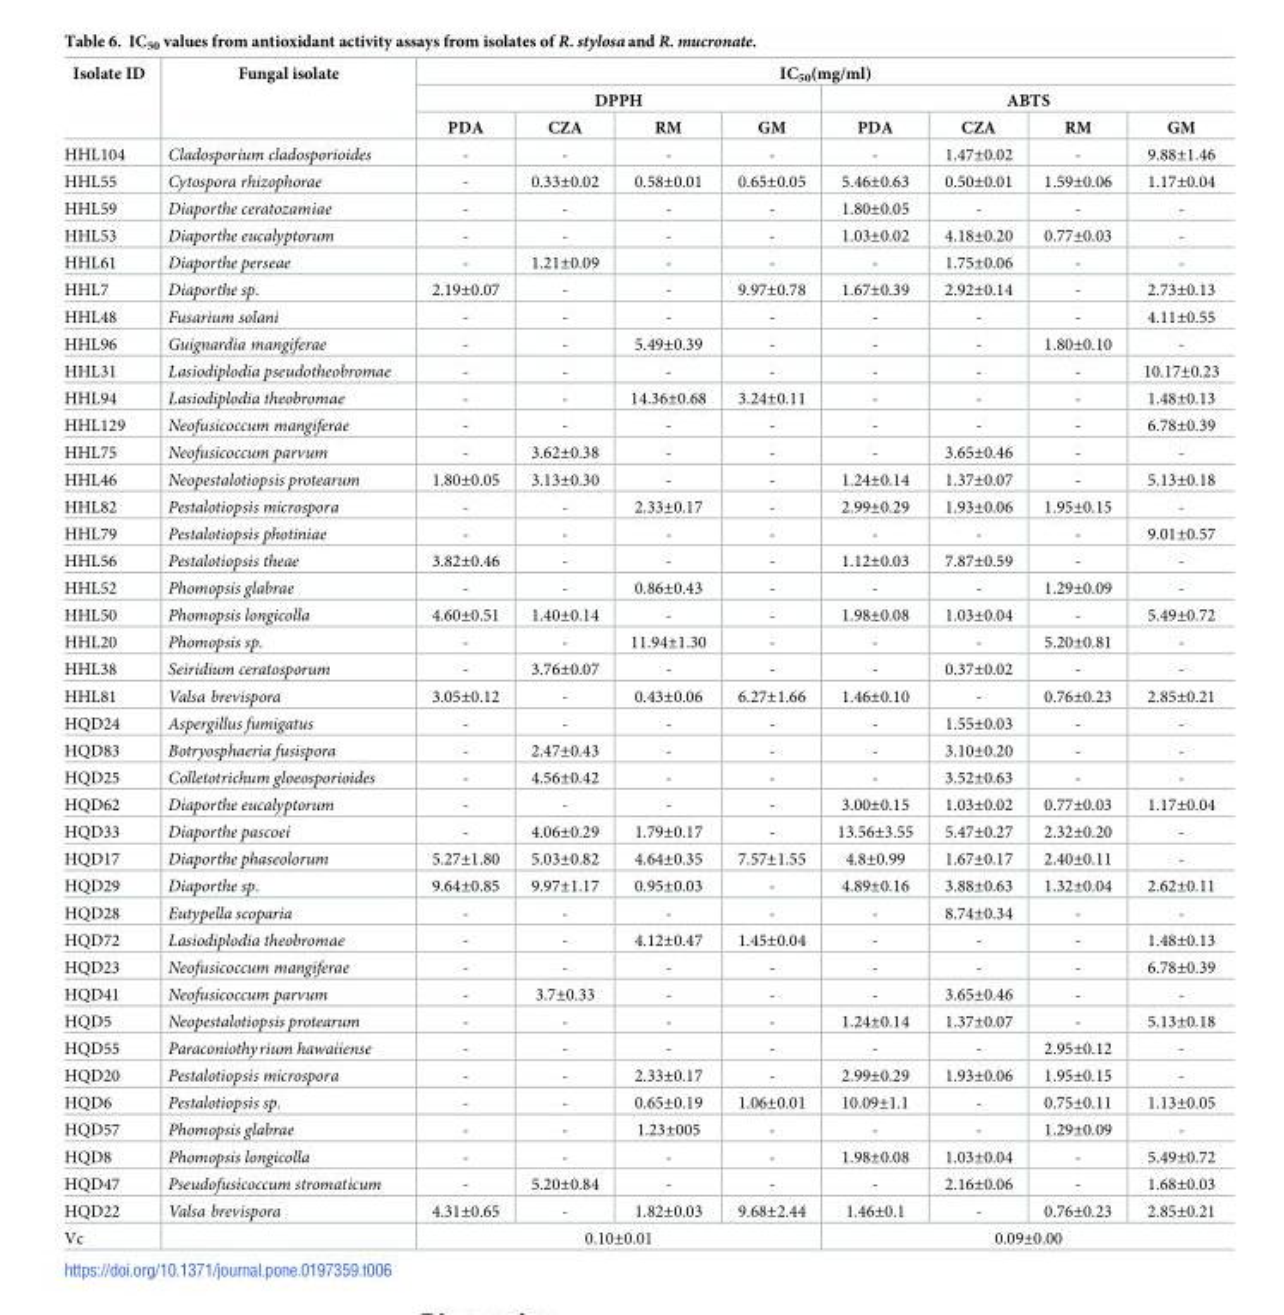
<table><thead><tr><td rowspan="3">Isolate ID</td><td rowspan="3">Fungal isolate</td><td colspan="8">IC<sub>50</sub>(mg/ml)</td></tr><tr><td colspan="4">DPPH</td><td colspan="4">ABTS</td></tr><tr><td>PDA</td><td>CZA</td><td>RM</td><td>GM</td><td>PDA</td><td>CZA</td><td>RM</td><td>GM</td></tr></thead><tbody><tr><td>HHL104</td><td>Cladosporium cladosporioides</td><td>-</td><td>-</td><td>-</td><td>-</td><td>-</td><td>1.47±0.02</td><td>-</td><td>9.88±1.46</td></tr><tr><td>HHL55</td><td>Cytospora rhizophorae</td><td>-</td><td>0.33±0.02</td><td>0.58±0.01</td><td>0.65±0.05</td><td>5.46±0.63</td><td>0.50±0.01</td><td>1.59±0.06</td><td>1.17±0.04</td></tr><tr><td>HHL59</td><td>Diaporthe ceratozamiae</td><td>-</td><td>-</td><td>-</td><td>-</td><td>1.80±0.05</td><td>-</td><td>-</td><td>-</td></tr><tr><td>HHL53</td><td>Diaporthe eucalyptorum</td><td>-</td><td>-</td><td>-</td><td>-</td><td>1.03±0.02</td><td>4.18±0.20</td><td>0.77±0.03</td><td>-</td></tr><tr><td>HHL61</td><td>Diaporthe perseae</td><td>-</td><td>1.21±0.09</td><td>-</td><td>-</td><td>-</td><td>1.75±0.06</td><td>-</td><td>-</td></tr><tr><td>HHL7</td><td>Diaporthe sp.</td><td>2.19±0.07</td><td>-</td><td>-</td><td>9.97±0.78</td><td>1.67±0.39</td><td>2.92±0.14</td><td>-</td><td>2.73±0.13</td></tr><tr><td>HHL48</td><td>Fusarium solani</td><td>-</td><td>-</td><td>-</td><td>-</td><td>-</td><td>-</td><td>-</td><td>4.11±0.55</td></tr><tr><td>HHL96</td><td>Guignardia mangiferae</td><td>-</td><td>-</td><td>5.49±0.39</td><td>-</td><td>-</td><td>-</td><td>1.80±0.10</td><td>-</td></tr><tr><td>HHL31</td><td>Lasiodiplodia pseudotheobromae</td><td>-</td><td>-</td><td>-</td><td>-</td><td>-</td><td>-</td><td>-</td><td>10.17±0.23</td></tr><tr><td>HHL94</td><td>Lasiodiplodia theobromae</td><td>-</td><td>-</td><td>14.36±0.68</td><td>3.24±0.11</td><td>-</td><td>-</td><td>-</td><td>1.48±0.13</td></tr><tr><td>HHL129</td><td>Neofusicoccum mangiferae</td><td>-</td><td>-</td><td>-</td><td>-</td><td>-</td><td>-</td><td>-</td><td>6.78±0.39</td></tr><tr><td>HHL75</td><td>Neofusicoccum parvum</td><td>-</td><td>3.62±0.38</td><td>-</td><td>-</td><td>-</td><td>3.65±0.46</td><td>-</td><td>-</td></tr><tr><td>HHL46</td><td>Neopestalotiopsis protearum</td><td>1.80±0.05</td><td>3.13±0.30</td><td>-</td><td>-</td><td>1.24±0.14</td><td>1.37±0.07</td><td>-</td><td>5.13±0.18</td></tr><tr><td>HHL82</td><td>Pestalotiopsis microspora</td><td>-</td><td>-</td><td>2.33±0.17</td><td>-</td><td>2.99±0.29</td><td>1.93±0.06</td><td>1.95±0.15</td><td>-</td></tr><tr><td>HHL79</td><td>Pestalotiopsis photiniae</td><td>-</td><td>-</td><td>-</td><td>-</td><td>-</td><td>-</td><td>-</td><td>9.01±0.57</td></tr><tr><td>HHL56</td><td>Pestalotiopsis theae</td><td>3.82±0.46</td><td>-</td><td>-</td><td>-</td><td>1.12±0.03</td><td>7.87±0.59</td><td>-</td><td>-</td></tr><tr><td>HHL52</td><td>Phomopsis glabrae</td><td>-</td><td>-</td><td>0.86±0.43</td><td>-</td><td>-</td><td>-</td><td>1.29±0.09</td><td>-</td></tr><tr><td>HHL50</td><td>Phomopsis longicolla</td><td>4.60±0.51</td><td>1.40±0.14</td><td>-</td><td>-</td><td>1.98±0.08</td><td>1.03±0.04</td><td>-</td><td>5.49±0.72</td></tr><tr><td>HHL20</td><td>Phomopsis sp.</td><td>-</td><td>-</td><td>11.94±1.30</td><td>-</td><td>-</td><td>-</td><td>5.20±0.81</td><td>-</td></tr><tr><td>HHL38</td><td>Seiridium ceratosporum</td><td>-</td><td>3.76±0.07</td><td>-</td><td>-</td><td>-</td><td>0.37±0.02</td><td>-</td><td>-</td></tr><tr><td>HHL81</td><td>Valsa brevispora</td><td>3.05±0.12</td><td>-</td><td>0.43±0.06</td><td>6.27±1.66</td><td>1.46±0.10</td><td>-</td><td>0.76±0.23</td><td>2.85±0.21</td></tr><tr><td>HQD24</td><td>Aspergillus fumigatus</td><td>-</td><td>-</td><td>-</td><td>-</td><td>-</td><td>1.55±0.03</td><td>-</td><td>-</td></tr><tr><td>HQD83</td><td>Botryosphaeria fusispora</td><td>-</td><td>2.47±0.43</td><td>-</td><td>-</td><td>-</td><td>3.10±0.20</td><td>-</td><td>-</td></tr><tr><td>HQD25</td><td>Colletotrichum gloeosporioides</td><td>-</td><td>4.56±0.42</td><td>-</td><td>-</td><td>-</td><td>3.52±0.63</td><td>-</td><td>-</td></tr><tr><td>HQD62</td><td>Diaporthe eucalyptorum</td><td>-</td><td>-</td><td>-</td><td>-</td><td>3.00±0.15</td><td>1.03±0.02</td><td>0.77±0.03</td><td>1.17±0.04</td></tr><tr><td>HQD33</td><td>Diaporthe pascoei</td><td>-</td><td>4.06±0.29</td><td>1.79±0.17</td><td>-</td><td>13.56±3.55</td><td>5.47±0.27</td><td>2.32±0.20</td><td>-</td></tr><tr><td>HQD17</td><td>Diaporthe phaseolorum</td><td>5.27±1.80</td><td>5.03±0.82</td><td>4.64±0.35</td><td>7.57±1.55</td><td>4.8±0.99</td><td>1.67±0.17</td><td>2.40±0.11</td><td>-</td></tr><tr><td>HQD29</td><td>Diaporthe sp.</td><td>9.64±0.85</td><td>9.97±1.17</td><td>0.95±0.03</td><td>-</td><td>4.89±0.16</td><td>3.88±0.63</td><td>1.32±0.04</td><td>2.62±0.11</td></tr><tr><td>HQD28</td><td>Eutypella scoparia</td><td>-</td><td>-</td><td>-</td><td>-</td><td>-</td><td>8.74±0.34</td><td>-</td><td>-</td></tr><tr><td>HQD72</td><td>Lasiodiplodia theobromae</td><td>-</td><td>-</td><td>4.12±0.47</td><td>1.45±0.04</td><td>-</td><td>-</td><td>-</td><td>1.48±0.13</td></tr><tr><td>HQD23</td><td>Neofusicoccum mangiferae</td><td>-</td><td>-</td><td>-</td><td>-</td><td>-</td><td>-</td><td>-</td><td>6.78±0.39</td></tr><tr><td>HQD41</td><td>Neofusicoccum parvum</td><td>-</td><td>3.7±0.33</td><td>-</td><td>-</td><td>-</td><td>3.65±0.46</td><td>-</td><td>-</td></tr><tr><td>HQD5</td><td>Neopestalotiopsis protearum</td><td>-</td><td>-</td><td>-</td><td>-</td><td>1.24±0.14</td><td>1.37±0.07</td><td>-</td><td>5.13±0.18</td></tr><tr><td>HQD55</td><td>Paraconiothyrium hawaiiense</td><td>-</td><td>-</td><td>-</td><td>-</td><td>-</td><td>-</td><td>2.95±0.12</td><td>-</td></tr><tr><td>HQD20</td><td>Pestalotiopsis microspora</td><td>-</td><td>-</td><td>2.33±0.17</td><td>-</td><td>2.99±0.29</td><td>1.93±0.06</td><td>1.95±0.15</td><td>-</td></tr><tr><td>HQD6</td><td>Pestalotiopsis sp.</td><td>-</td><td>-</td><td>0.65±0.19</td><td>1.06±0.01</td><td>10.09±1.1</td><td>-</td><td>0.75±0.11</td><td>1.13±0.05</td></tr><tr><td>HQD57</td><td>Phomopsis glabrae</td><td>-</td><td>-</td><td>1.23±005</td><td>-</td><td>-</td><td>-</td><td>1.29±0.09</td><td>-</td></tr><tr><td>HQD8</td><td>Phomopsis longicolla</td><td>-</td><td>-</td><td>-</td><td>-</td><td>1.98±0.08</td><td>1.03±0.04</td><td>-</td><td>5.49±0.72</td></tr><tr><td>HQD47</td><td>Pseudofusicoccum stromaticum</td><td>-</td><td>5.20±0.84</td><td>-</td><td>-</td><td>-</td><td>2.16±0.06</td><td>-</td><td>1.68±0.03</td></tr><tr><td>HQD22</td><td>Valsa brevispora</td><td>4.31±0.65</td><td>-</td><td>1.82±0.03</td><td>9.68±2.44</td><td>1.46±0.1</td><td>-</td><td>0.76±0.23</td><td>2.85±0.21</td></tr><tr><td>Vc</td><td></td><td colspan="4">0.10±0.01</td><td colspan="4">0.09±0.00</td></tr></tbody></table>